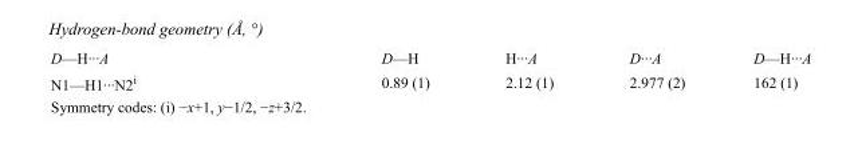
<table><tbody><tr><td>D—H···A</td><td>D—H</td><td>H···A</td><td>D···A</td><td>D—H···A</td></tr><tr><td>N1—H1···N2<sup>i</sup></td><td>0.89 (1)</td><td>2.12 (1)</td><td>2.977 (2)</td><td>162 (1)</td></tr></tbody></table>